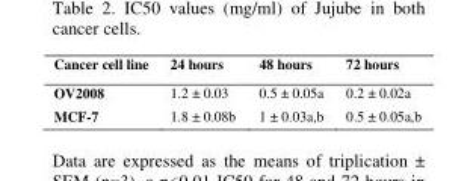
<table><thead><tr><td>Cancer cell line</td><td>24 hours</td><td>48 hours</td><td>72 hours</td></tr></thead><tbody><tr><td>OV2008</td><td>1.2 ± 0.03</td><td>0.5 ± 0.05a</td><td>0.2 ± 0.02a</td></tr><tr><td>MCF-7</td><td>1.8 ± 0.08b</td><td>1 ± 0.03a,b</td><td>0.5 ± 0.05a,b</td></tr></tbody></table>